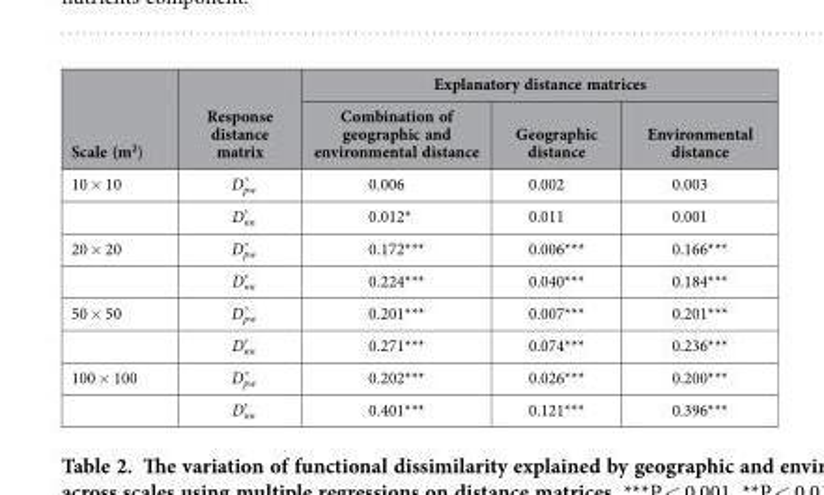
<table><thead><tr><td rowspan="2">Scale (m<sup>2</sup>)</td><td rowspan="2">Response distance matrix</td><td colspan="3">Explanatory distance matrices</td></tr><tr><td>Combination of geographic and environmental distance</td><td>Geographic distance</td><td>Environmental distance</td></tr></thead><tbody><tr><td rowspan="2">10 × 10</td><td>D<sub>pw</sub>’</td><td>0.006</td><td>0.002</td><td>0.003</td></tr><tr><td>D<sub>nn</sub>’</td><td>0.012*</td><td>0.011</td><td>0.001</td></tr><tr><td rowspan="2">20 × 20</td><td>D<sub>pw</sub>’</td><td>0.172***</td><td>0.006***</td><td>0.166***</td></tr><tr><td>D<sub>nn</sub>’</td><td>0.224***</td><td>0.040***</td><td>0.184***</td></tr><tr><td rowspan="2">50 × 50</td><td>D<sub>pw</sub>’</td><td>0.201***</td><td>0.007***</td><td>0.201***</td></tr><tr><td>D<sub>nn</sub>’</td><td>0.271***</td><td>0.074***</td><td>0.236***</td></tr><tr><td rowspan="2">100 × 100</td><td>D<sub>pw</sub>’</td><td>0.202***</td><td>0.026***</td><td>0.200***</td></tr><tr><td>D<sub>nn</sub>’</td><td>0.401***</td><td>0.121***</td><td>0.396***</td></tr></tbody></table>